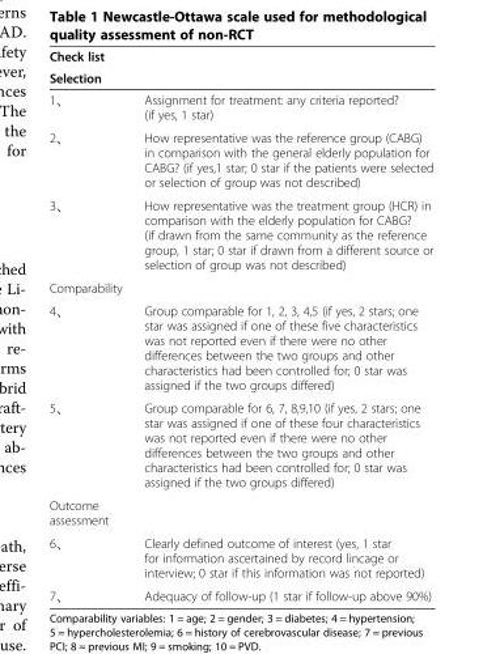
<table><thead><tr><td rowspan="2">Check list Selection</td><td rowspan="2"></td></tr><tr></tr></thead><tbody><tr><td>1、</td><td>Assignment for treatment: any criteria reported? (if yes, 1 star)</td></tr><tr><td>2、</td><td>How representative was the reference group (CABG) in comparison with the general elderly population for CABG? (if yes,1 star; 0 star if the patients were selected or selection of group was not described)</td></tr><tr><td>3、</td><td>How representative was the treatment group (HCR) in comparison with the elderly population for CABG? (if drawn from the same community as the reference group, 1 star; 0 star if drawn from a different source or selection of group was not described)</td></tr><tr><td colspan="2">Comparability</td></tr><tr><td>4、</td><td>Group comparable for 1, 2, 3, 4,5 (if yes, 2 stars; one star was assigned if one of these five characteristics was not reported even if there were no other differences between the two groups and other characteristics had been controlled for; 0 star was assigned if the two groups differed)</td></tr><tr><td>5、</td><td>Group comparable for 6, 7, 8,9,10 (if yes, 2 stars; one star was assigned if one of these four characteristics was not reported even if there were no other differences between the two groups and other characteristics had been controlled for; 0 star was assigned if the two groups differed)</td></tr><tr><td colspan="2">Outcome assessment</td></tr><tr><td>6、</td><td>Clearly defined outcome of interest (yes, 1 star for information ascertained by record lincage or interview; 0 star if this information was not reported)</td></tr><tr><td>7、</td><td>Adequacy of follow-up (1 star if follow-up above 90%)</td></tr></tbody></table>